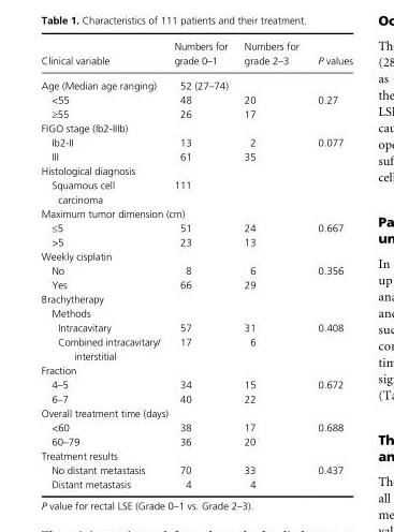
<table><thead><tr><td>Clinical variable</td><td>Numbers for grade 0–1</td><td>Numbers for grade 2–3</td><td>P values</td></tr></thead><tbody><tr><td>Age (Median age ranging)</td><td colspan="2">52 (27–74)</td><td></td></tr><tr><td>&lt;55</td><td>48</td><td>20</td><td rowspan="2">0.27</td></tr><tr><td>≥55</td><td>26</td><td>17</td></tr><tr><td colspan="4">FIGO stage (Ib2- IIIb)</td></tr><tr><td>Ib2- II</td><td>13</td><td>2</td><td rowspan="2">0.077</td></tr><tr><td>III</td><td>61</td><td>35</td></tr><tr><td colspan="4">Histological diagnosis</td></tr><tr><td>Squamous cell carcinoma</td><td colspan="2">111</td><td></td></tr><tr><td colspan="4">Maximum tumor dimension (cm)</td></tr><tr><td>≤5</td><td>51</td><td>24</td><td rowspan="2">0.667</td></tr><tr><td>&gt;5</td><td>23</td><td>13</td></tr><tr><td colspan="4">Weekly cisplatin</td></tr><tr><td>No</td><td>8</td><td>6</td><td rowspan="2">0.356</td></tr><tr><td>Yes</td><td>66</td><td>29</td></tr><tr><td colspan="4">Brachytherapy</td></tr><tr><td colspan="4">Methods</td></tr><tr><td>Intracavitary</td><td>57</td><td>31</td><td rowspan="2">0.408</td></tr><tr><td>Combined intracavitary/ interstitial</td><td>17</td><td>6</td></tr><tr><td colspan="4">Fraction</td></tr><tr><td>4–5</td><td>34</td><td>15</td><td rowspan="2">0.672</td></tr><tr><td>6–7</td><td>40</td><td>22</td></tr><tr><td colspan="4">Overall treatment time (days)</td></tr><tr><td>&lt;60</td><td>38</td><td>17</td><td rowspan="2">0.688</td></tr><tr><td>60–79</td><td>36</td><td>20</td></tr><tr><td colspan="4">Treatment results</td></tr><tr><td>No distant metastasis</td><td>70</td><td>33</td><td rowspan="2">0.437</td></tr><tr><td>Distant metastasis</td><td>4</td><td>4</td></tr></tbody></table>